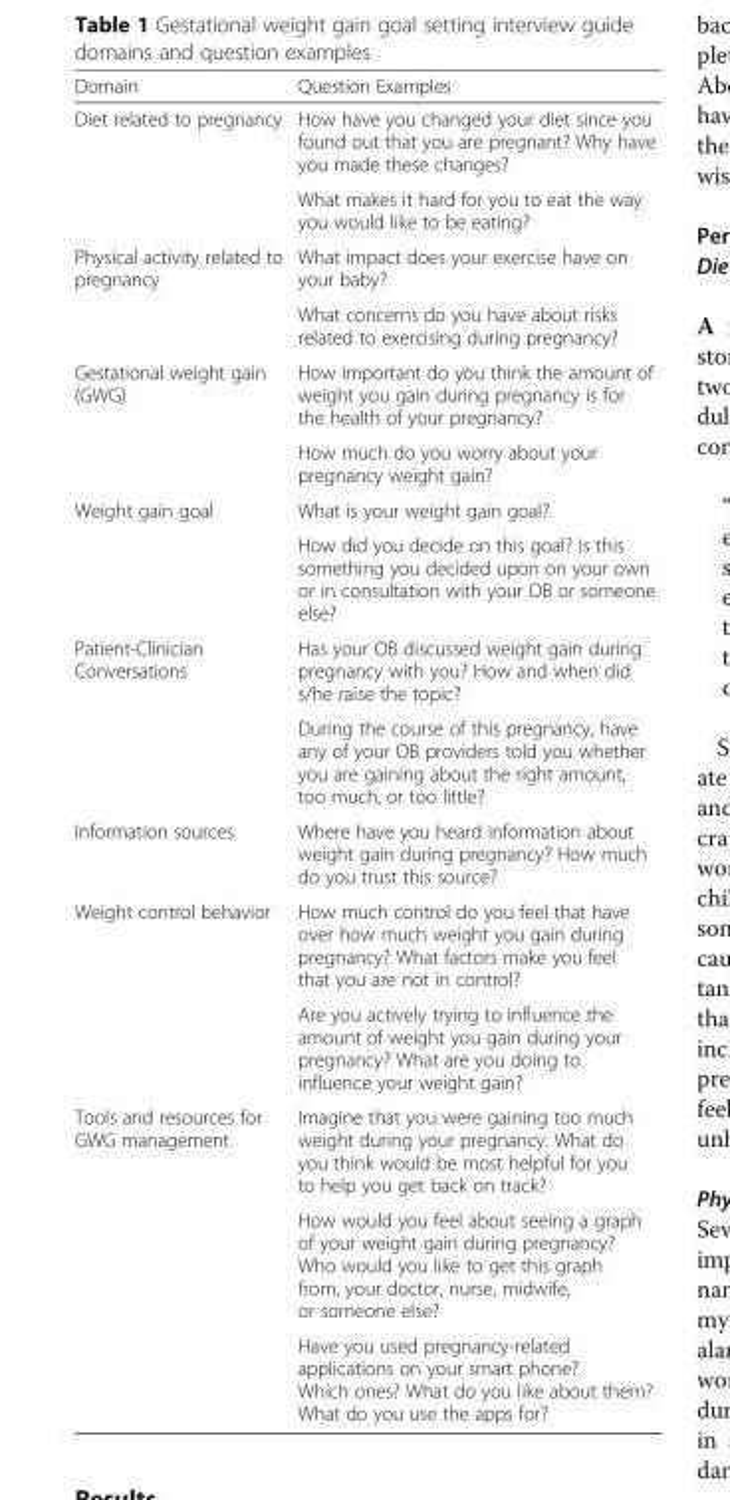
<table><thead><tr><td>Domain</td><td>Question Examples</td></tr></thead><tbody><tr><td rowspan="2">Diet related to pregnancy</td><td>How have you changed your diet since you found out that you are pregnant? Why have you made these changes?</td></tr><tr><td>What makes it hard for you to eat the way you would like to be eating?</td></tr><tr><td rowspan="2">Physical activity related to pregnancy</td><td>What impact does your exercise have on your baby?</td></tr><tr><td>What concerns do you have about risks related to exercising during pregnancy?</td></tr><tr><td rowspan="2">Gestational weight gain (GWG)</td><td>How important do you think the amount of weight you gain during pregnancy is for the health of your pregnancy?</td></tr><tr><td>How much do you worry about your pregnancy weight gain?</td></tr><tr><td rowspan="2">Weight gain goal</td><td>What is your weight gain goal?</td></tr><tr><td>How did you decide on this goal? Is this something you decided upon on your own or in consultation with your OB or someone else?</td></tr><tr><td rowspan="2">Patient-Clinician Conversations</td><td>Has your OB discussed weight gain during pregnancy with you? How and when did s/he raise the topic?</td></tr><tr><td>During the course of this pregnancy, have any of your OB providers told you whether you are gaining about the right amount, too much, or too little?</td></tr><tr><td>Information sources</td><td>Where have you heard information about weight gain during pregnancy? How much do you trust this source?</td></tr><tr><td rowspan="2">Weight control behavior</td><td>How much control do you feel that have over how much weight you gain during pregnancy? What factors make you feel that you are not in control?</td></tr><tr><td>Are you actively trying to influence the amount of weight you gain during your pregnancy? What are you doing to influence your weight gain?</td></tr><tr><td rowspan="3">Tools and resources for GWG management</td><td>Imagine that you were gaining too much weight during your pregnancy. What do you think would be most helpful for you to help you get back on track?</td></tr><tr><td>How would you feel about seeing a graph of your weight gain during pregnancy? Who would you like to get this graph from, your doctor, nurse, midwife, or someone else?</td></tr><tr><td>Have you used pregnancy-related applications on your smart phone? Which ones? What do you like about them? What do you use the apps for?</td></tr></tbody></table>